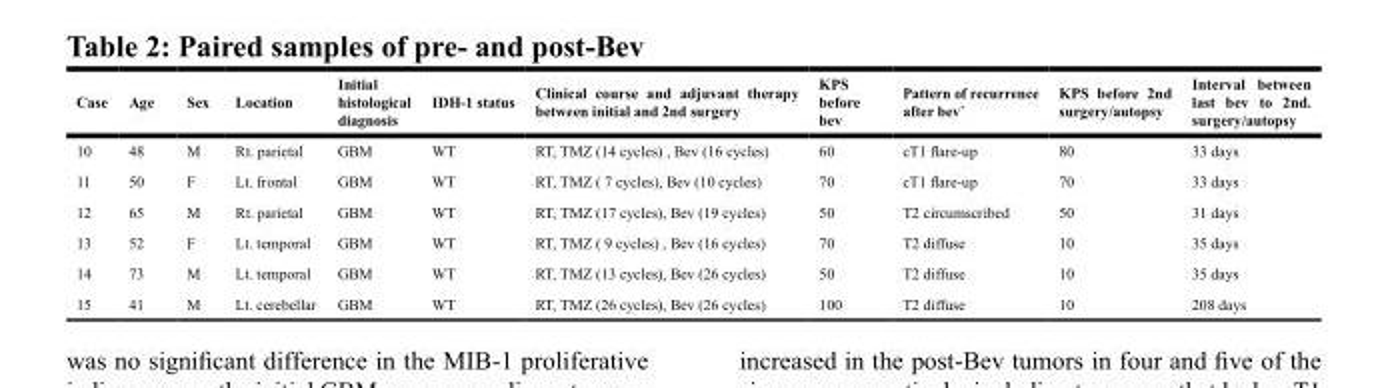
<table><thead><tr><td>Case</td><td>Age</td><td>Sex</td><td>Location</td><td>Initial histological diagnosis</td><td>IDH-1 status</td><td>Clinical course and adjuvant therapy between initial and 2nd surgery</td><td>KPS before bev</td><td>Pattern of recurrence after bev*</td><td>KPS before 2nd surgery/autopsy</td><td>Interval between last bev to 2nd. surgery/autopsy</td></tr></thead><tbody><tr><td>10</td><td>48</td><td>M</td><td>Rt. parietal</td><td>GBM</td><td>WT</td><td>RT, TMZ (14 cycles) , Bev (16 cycles)</td><td>60</td><td>cT1 flare-up</td><td>80</td><td>33 days</td></tr><tr><td>11</td><td>50</td><td>F</td><td>Lt. frontal</td><td>GBM</td><td>WT</td><td>RT, TMZ ( 7 cycles), Bev (10 cycles)</td><td>70</td><td>cT1 flare-up</td><td>70</td><td>33 days</td></tr><tr><td>12</td><td>65</td><td>M</td><td>Rt. parietal</td><td>GBM</td><td>WT</td><td>RT, TMZ (17 cycles), Bev (19 cycles)</td><td>50</td><td>T2 circumscribed</td><td>50</td><td>31 days</td></tr><tr><td>13</td><td>52</td><td>F</td><td>Lt. temporal</td><td>GBM</td><td>WT</td><td>RT, TMZ ( 9 cycles) , Bev (16 cycles)</td><td>70</td><td>T2 diffuse</td><td>10</td><td>35 days</td></tr><tr><td>14</td><td>73</td><td>M</td><td>Lt. temporal</td><td>GBM</td><td>WT</td><td>RT, TMZ (13 cycles), Bev (26 cycles)</td><td>50</td><td>T2 diffuse</td><td>10</td><td>35 days</td></tr><tr><td>15</td><td>41</td><td>M</td><td>Lt. cerebellar</td><td>GBM</td><td>WT</td><td>RT, TMZ (26 cycles), Bev (26 cycles)</td><td>100</td><td>T2 diffuse</td><td>10</td><td>208 days</td></tr></tbody></table>